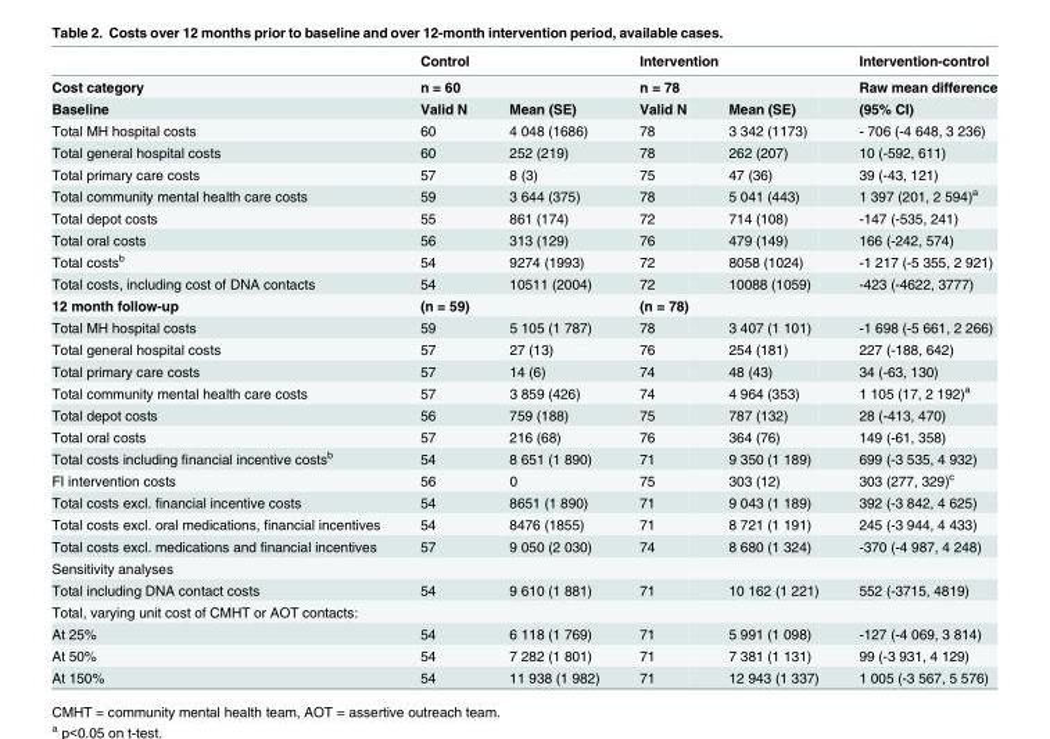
<table><thead><tr><td rowspan="2">Cost category</td><td colspan="2">Control</td><td colspan="2">Intervention</td><td rowspan="2">Intervention-control Raw mean difference</td></tr><tr><td>n = 60</td><td></td><td>n = 78</td><td></td></tr></thead><tbody><tr><td>Baseline</td><td>Valid N</td><td>Mean (SE)</td><td>Valid N</td><td>Mean (SE)</td><td>(95% CI)</td></tr><tr><td>Total MH hospital costs</td><td>60</td><td>4 048 (1686)</td><td>78</td><td>3 342 (1173)</td><td>- 706 (-4 648, 3 236)</td></tr><tr><td>Total general hospital costs</td><td>60</td><td>252 (219)</td><td>78</td><td>262 (207)</td><td>10 (-592, 611)</td></tr><tr><td>Total primary care costs</td><td>57</td><td>8 (3)</td><td>75</td><td>47 (36)</td><td>39 (-43, 121)</td></tr><tr><td>Total community mental health care costs</td><td>59</td><td>3 644 (375)</td><td>78</td><td>5 041 (443)</td><td>1 397 (201, 2 594)<sup>a</sup></td></tr><tr><td>Total depot costs</td><td>55</td><td>861 (174)</td><td>72</td><td>714 (108)</td><td>-147 (-535, 241)</td></tr><tr><td>Total oral costs</td><td>56</td><td>313 (129)</td><td>76</td><td>479 (149)</td><td>166 (-242, 574)</td></tr><tr><td>Total costs<sup>b</sup></td><td>54</td><td>9274 (1993)</td><td>72</td><td>8058 (1024)</td><td>-1 217 (-5 355, 2 921)</td></tr><tr><td>Total costs, including cost of DNA contacts</td><td>54</td><td>10511 (2004)</td><td>72</td><td>10088 (1059)</td><td>-423 (-4622, 3777)</td></tr><tr><td>12 month follow-up</td><td>(n = 59)</td><td></td><td>(n = 78)</td><td></td><td></td></tr><tr><td>Total MH hospital costs</td><td>59</td><td>5 105 (1 787)</td><td>78</td><td>3 407 (1 101)</td><td>-1 698 (-5 661, 2 266)</td></tr><tr><td>Total general hospital costs</td><td>57</td><td>27 (13)</td><td>76</td><td>254 (181)</td><td>227 (-188, 642)</td></tr><tr><td>Total primary care costs</td><td>57</td><td>14 (6)</td><td>74</td><td>48 (43)</td><td>34 (-63, 130)</td></tr><tr><td>Total community mental health care costs</td><td>57</td><td>3 859 (426)</td><td>74</td><td>4 964 (353)</td><td>1 105 (17, 2 192)<sup>a</sup></td></tr><tr><td>Total depot costs</td><td>56</td><td>759 (188)</td><td>75</td><td>787 (132)</td><td>28 (-413, 470)</td></tr><tr><td>Total oral costs</td><td>57</td><td>216 (68)</td><td>76</td><td>364 (76)</td><td>149 (-61, 358)</td></tr><tr><td>Total costs including financial incentive costs<sup>b</sup></td><td>54</td><td>8 651 (1 890)</td><td>71</td><td>9 350 (1 189)</td><td>699 (-3 535, 4 932)</td></tr><tr><td>FI intervention costs</td><td>56</td><td>0</td><td>75</td><td>303 (12)</td><td>303 (277, 329)<sup>c</sup></td></tr><tr><td>Total costs excl. financial incentive costs</td><td>54</td><td>8651 (1 890)</td><td>71</td><td>9 043 (1 189)</td><td>392 (-3 842, 4 625)</td></tr><tr><td>Total costs excl. oral medications, financial incentives</td><td>54</td><td>8476 (1855)</td><td>71</td><td>8 721 (1 191)</td><td>245 (-3 944, 4 433)</td></tr><tr><td>Total costs excl. medications and financial incentives</td><td>57</td><td>9 050 (2 030)</td><td>74</td><td>8 680 (1 324)</td><td>-370 (-4 987, 4 248)</td></tr><tr><td colspan="6">Sensitivity analyses</td></tr><tr><td>Total including DNA contact costs</td><td>54</td><td>9 610 (1 881)</td><td>71</td><td>10 162 (1 221)</td><td>552 (-3715, 4819)</td></tr><tr><td colspan="6">Total, varying unit cost of CMHT or AOT contacts:</td></tr><tr><td>At 25%</td><td>54</td><td>6 118 (1 769)</td><td>71</td><td>5 991 (1 098)</td><td>-127 (-4 069, 3 814)</td></tr><tr><td>At 50%</td><td>54</td><td>7 282 (1 801)</td><td>71</td><td>7 381 (1 131)</td><td>99 (-3 931, 4 129)</td></tr><tr><td>At 150%</td><td>54</td><td>11 938 (1 982)</td><td>71</td><td>12 943 (1 337)</td><td>1 005 (-3 567, 5 576)</td></tr></tbody></table>